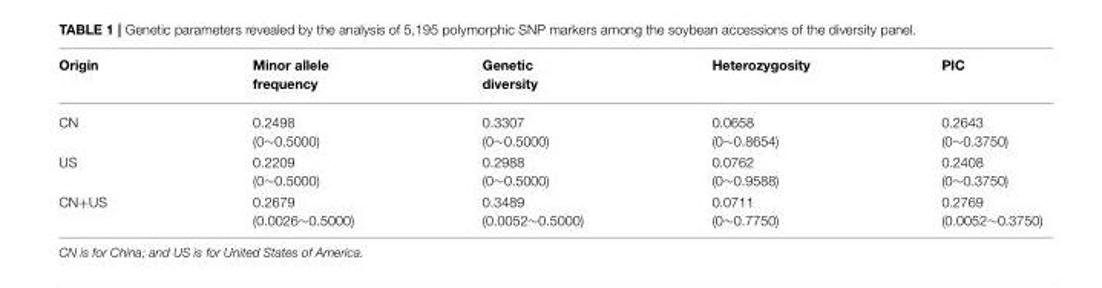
<table><thead><tr><td>Origin</td><td>Minor allele frequency</td><td>Genetic diversity</td><td>Heterozygosity</td><td>PIC</td></tr></thead><tbody><tr><td>CN</td><td>0.2498 (0∼0.5000)</td><td>0.3307 (0∼0.5000)</td><td>0.0658 (0∼0.8654)</td><td>0.2643 (0∼0.3750)</td></tr><tr><td>US</td><td>0.2209 (0∼0.5000)</td><td>0.2988 (0∼0.5000)</td><td>0.0762 (0∼0.9588)</td><td>0.2408 (0∼0.3750)</td></tr><tr><td>CN+US</td><td>0.2679 (0.0026∼0.5000)</td><td>0.3489 (0.0052∼0.5000)</td><td>0.0711 (0∼0.7750)</td><td>0.2769 (0.0052∼0.3750)</td></tr></tbody></table>